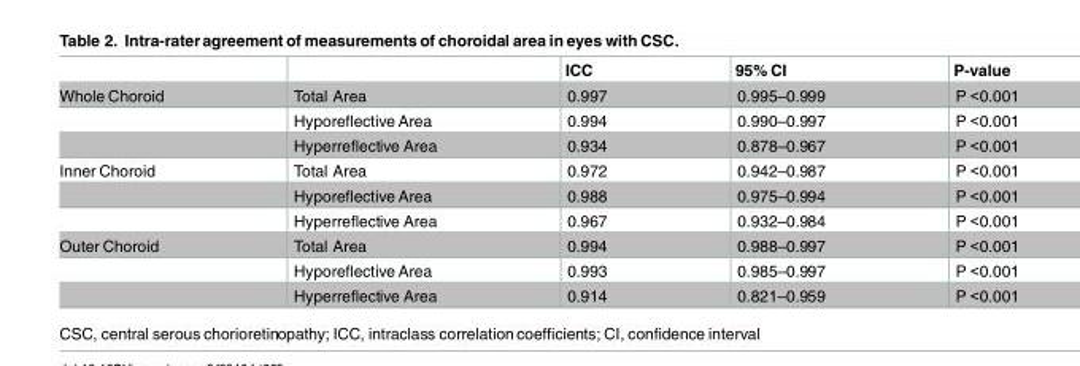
<table><thead><tr><td></td><td></td><td>ICC</td><td>95% CI</td><td>P-value</td></tr></thead><tbody><tr><td rowspan="3">Whole Choroid</td><td>Total Area</td><td>0.997</td><td>0.995–0.999</td><td>P &lt;0.001</td></tr><tr><td>Hyporeflective Area</td><td>0.994</td><td>0.990–0.997</td><td>P &lt;0.001</td></tr><tr><td>Hyperreflective Area</td><td>0.934</td><td>0.878–0.967</td><td>P &lt;0.001</td></tr><tr><td rowspan="3">Inner Choroid</td><td>Total Area</td><td>0.972</td><td>0.942–0.987</td><td>P &lt;0.001</td></tr><tr><td>Hyporeflective Area</td><td>0.988</td><td>0.975–0.994</td><td>P &lt;0.001</td></tr><tr><td>Hyperreflective Area</td><td>0.967</td><td>0.932–0.984</td><td>P &lt;0.001</td></tr><tr><td rowspan="3">Outer Choroid</td><td>Total Area</td><td>0.994</td><td>0.988–0.997</td><td>P &lt;0.001</td></tr><tr><td>Hyporeflective Area</td><td>0.993</td><td>0.985–0.997</td><td>P &lt;0.001</td></tr><tr><td>Hyperreflective Area</td><td>0.914</td><td>0.821–0.959</td><td>P &lt;0.001</td></tr></tbody></table>